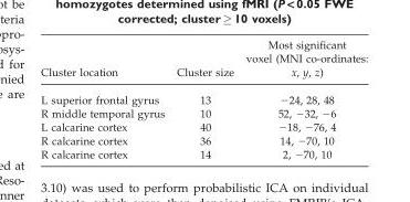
<table><thead><tr><td>Cluster location</td><td>Cluster size</td><td>Most significant voxel (MNI co-ordinates: x, y, z)</td></tr></thead><tbody><tr><td>L superior frontal gyrus</td><td>13</td><td>−24, 28, 48</td></tr><tr><td>R middle temporal gyrus</td><td>10</td><td>52, −32, −6</td></tr><tr><td>L calcarine cortex</td><td>40</td><td>−18, −76, 4</td></tr><tr><td>R calcarine cortex</td><td>36</td><td>14, −70, 10</td></tr><tr><td>R calcarine cortex</td><td>14</td><td>2, −70, 10</td></tr></tbody></table>